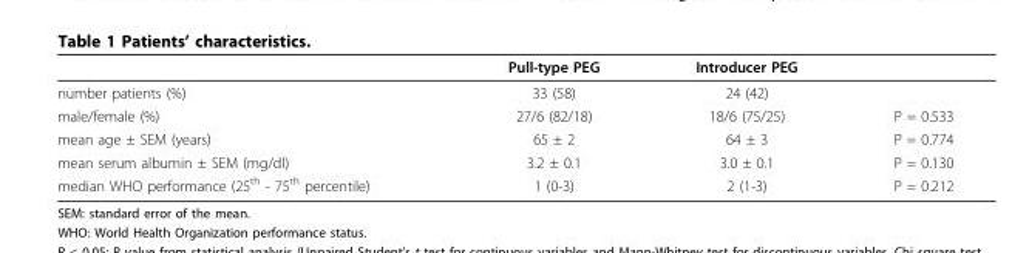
<table><thead><tr><td></td><td>Pull-type PEG</td><td>Introducer PEG</td><td></td></tr></thead><tbody><tr><td>number patients (%)</td><td>33 (58)</td><td>24 (42)</td><td></td></tr><tr><td>male/female (%)</td><td>27/6 (82/18)</td><td>18/6 (75/25)</td><td>P = 0.533</td></tr><tr><td>mean age ± SEM (years)</td><td>65 ± 2</td><td>64 ± 3</td><td>P = 0.774</td></tr><tr><td>mean serum albumin ± SEM (mg/dl)</td><td>3.2 ± 0.1</td><td>3.0 ± 0.1</td><td>P = 0.130</td></tr><tr><td>median WHO performance (25<sup>th</sup> - 75<sup>th</sup> percentile)</td><td>1 (0-3)</td><td>2 (1-3)</td><td>P = 0.212</td></tr></tbody></table>